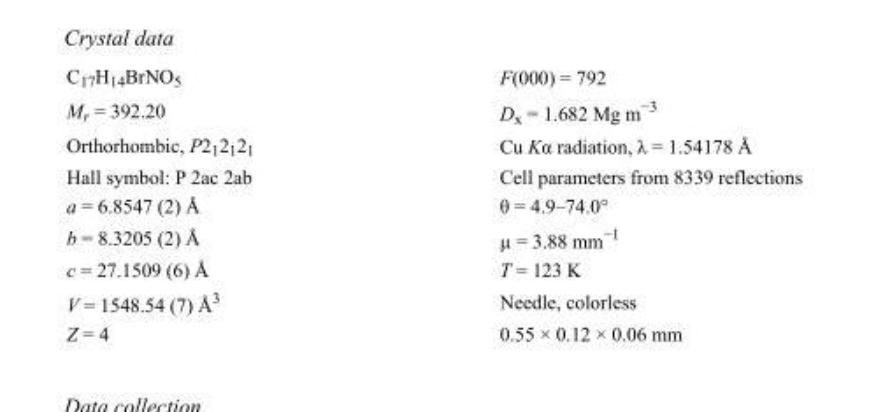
<table><tbody><tr><td>C<sub>17</sub>H<sub>14</sub>BrNO<sub>5</sub></td><td>F(000) = 792</td></tr><tr><td>M<sub>r</sub> = 392.20</td><td>D<sub>x</sub> = 1.682 Mg m<sup>−3</sup></td></tr><tr><td>Orthorhombic, P2<sub>1</sub>2<sub>1</sub>2<sub>1</sub></td><td>Cu Kα radiation, λ = 1.54178 Å</td></tr><tr><td>Hall symbol: P 2ac 2ab</td><td>Cell parameters from 8339 reflections</td></tr><tr><td>a = 6.8547 (2) Å</td><td>θ = 4.9–74.0°</td></tr><tr><td>b = 8.3205 (2) Å</td><td>µ = 3.88 mm<sup>−1</sup></td></tr><tr><td>c = 27.1509 (6) Å</td><td>T = 123 K</td></tr><tr><td>V = 1548.54 (7) Å<sup>3</sup></td><td>Needle, colorless</td></tr><tr><td>Z = 4</td><td>0.55 × 0.12 × 0.06 mm</td></tr></tbody></table>